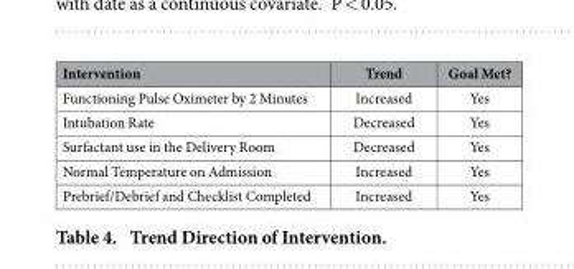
<table><thead><tr><td>Intervention</td><td>Trend</td><td>Goal Met?</td></tr></thead><tbody><tr><td>Functioning Pulse Oximeter by 2 Minutes</td><td>Increased</td><td>Yes</td></tr><tr><td>Intubation Rate</td><td>Decreased</td><td>Yes</td></tr><tr><td>Surfactant use in the Delivery Room</td><td>Decreased</td><td>Yes</td></tr><tr><td>Normal Temperature on Admission</td><td>Increased</td><td>Yes</td></tr><tr><td>Prebrief/Debrief and Checklist Completed</td><td>Increased</td><td>Yes</td></tr></tbody></table>